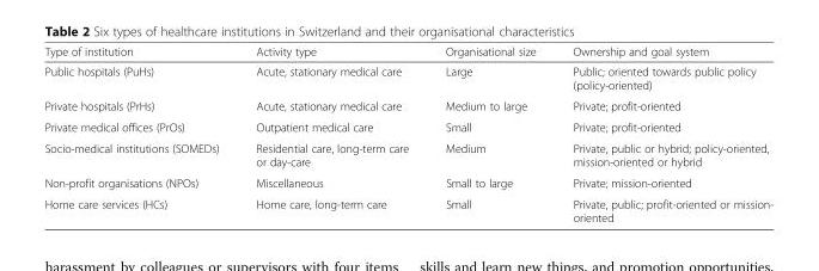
<table><thead><tr><td>Type of institution</td><td>Activity type</td><td>Organisational size</td><td>Ownership and goal system</td></tr></thead><tbody><tr><td>Public hospitals (PuHs)</td><td>Acute, stationary medical care</td><td>Large</td><td>Public; oriented towards public policy (policy-oriented)</td></tr><tr><td>Private hospitals (PrHs)</td><td>Acute, stationary medical care</td><td>Medium to large</td><td>Private; profit-oriented</td></tr><tr><td>Private medical offices (PrOs)</td><td>Outpatient medical care</td><td>Small</td><td>Private; profit-oriented</td></tr><tr><td>Socio-medical institutions (SOMEDs)</td><td>Residential care, long-term care or day-care</td><td>Medium</td><td>Private, public or hybrid; policy-oriented, mission-oriented or hybrid</td></tr><tr><td>Non-profit organisations (NPOs)</td><td>Miscellaneous</td><td>Small to large</td><td>Private; mission-oriented</td></tr><tr><td>Home care services (HCs)</td><td>Home care, long-term care</td><td>Small</td><td>Private, public; profit-oriented or mission- oriented</td></tr></tbody></table>